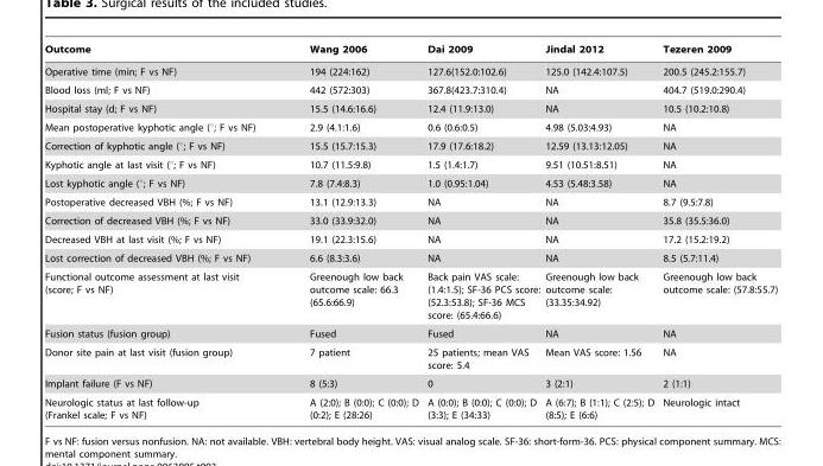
<table><thead><tr><td>Outcome</td><td>Wang 2006</td><td>Dai 2009</td><td>Jindal 2012</td><td>Tezeren 2009</td></tr></thead><tbody><tr><td>Operative time (min; F vs NF)</td><td>194 (224:162)</td><td>127.6(152.0:102.6)</td><td>125.0 (142.4:107.5)</td><td>200.5 (245.2:155.7)</td></tr><tr><td>Blood loss (ml; F vs NF)</td><td>442 (572:303)</td><td>367.8(423.7:310.4)</td><td>NA</td><td>404.7 (519.0:290.4)</td></tr><tr><td>Hospital stay (d; F vs NF)</td><td>15.5 (14.6:16.6)</td><td>12.4 (11.9:13.0)</td><td>NA</td><td>10.5 (10.2:10.8)</td></tr><tr><td>Mean postoperative kyphotic angle (°; F vs NF)</td><td>2.9 (4.1:1.6)</td><td>0.6 (0.6:0.5)</td><td>4.98 (5.03:4.93)</td><td>NA</td></tr><tr><td>Correction of kyphotic angle (°; F vs NF)</td><td>15.5 (15.7:15.3)</td><td>17.9 (17.6:18.2)</td><td>12.59 (13.13:12.05)</td><td>NA</td></tr><tr><td>Kyphotic angle at last visit (°; F vs NF)</td><td>10.7 (11.5:9.8)</td><td>1.5 (1.4:1.7)</td><td>9.51 (10.51:8.51)</td><td>NA</td></tr><tr><td>Lost kyphotic angle (°; F vs NF)</td><td>7.8 (7.4:8.3)</td><td>1.0 (0.95:1.04)</td><td>4.53 (5.48:3.58)</td><td>NA</td></tr><tr><td>Postoperative decreased VBH (%; F vs NF)</td><td>13.1 (12.9:13.3)</td><td>NA</td><td>NA</td><td>8.7 (9.5:7.8)</td></tr><tr><td>Correction of decreased VBH (%; F vs NF)</td><td>33.0 (33.9:32.0)</td><td>NA</td><td>NA</td><td>35.8 (35.5:36.0)</td></tr><tr><td>Decreased VBH at last visit (%; F vs NF)</td><td>19.1 (22.3:15.6)</td><td>NA</td><td>NA</td><td>17.2 (15.2:19.2)</td></tr><tr><td>Lost correction of decreased VBH (%; F vs NF)</td><td>6.6 (8.3:3.6)</td><td>NA</td><td>NA</td><td>8.5 (5.7:11.4)</td></tr><tr><td>Functional outcome assessment at last visit (score; F vs NF)</td><td>Greenough low back outcome scale: 66.3 (65.6:66.9)</td><td>Back pain VAS scale: (1.4:1.5); SF-36 PCS score: (52.3:53.8); SF-36 MCS score: (65.4:66.6)</td><td>Greenough low back outcome scale: (33.35:34.92)</td><td>Greenough low back outcome scale: (57.8:55.7)</td></tr><tr><td>Fusion status (fusion group)</td><td>Fused</td><td>Fused</td><td>NA</td><td>NA</td></tr><tr><td>Donor site pain at last visit (fusion group)</td><td>7 patient</td><td>25 patients; mean VAS score: 5.4</td><td>Mean VAS score: 1.56</td><td>NA</td></tr><tr><td>Implant failure (F vs NF)</td><td>8 (5:3)</td><td>0</td><td>3 (2:1)</td><td>2 (1:1)</td></tr><tr><td>Neurologic status at last follow-up (Frankel scale; F vs NF)</td><td>A (2:0); B (0:0); C (0:0); D (0:2); E (28:26)</td><td>A (0:0); B (0:0); C (0:0); D (3:3); E (34:33)</td><td>A (6:7); B (1:1); C (2:5); D (8:5); E (6:6)</td><td>Neurologic intact</td></tr></tbody></table>